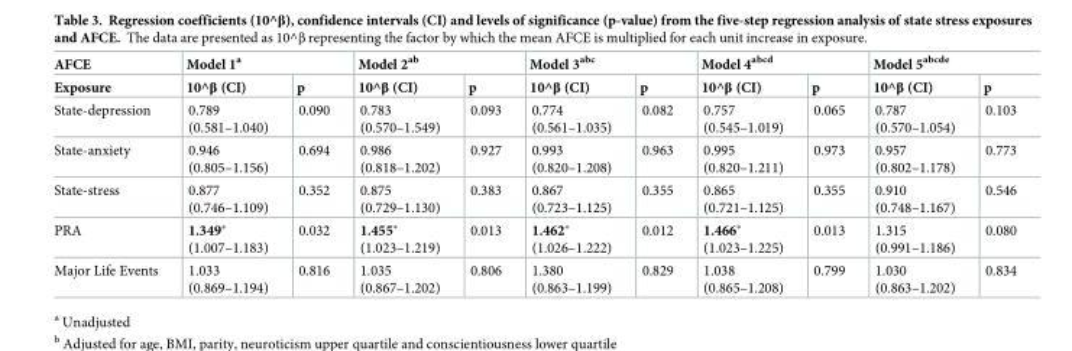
<table><thead><tr><td rowspan="2">AFCE Exposure</td><td colspan="2">Model 1a</td><td colspan="2">Model 2ab</td><td colspan="2">Model 3abc</td><td colspan="2">Model 4abcd</td><td colspan="2">Model 5abcde</td></tr><tr><td>10^β (CI)</td><td>p</td><td>10^β (CI)</td><td>p</td><td>10^β (CI)</td><td>p</td><td>10^β (CI)</td><td>p</td><td>10^β (CI)</td><td>p</td></tr></thead><tbody><tr><td>State-depression</td><td>0.789 (0.581–1.040)</td><td>0.090</td><td>0.783 (0.570–1.549)</td><td>0.093</td><td>0.774 (0.561–1.035)</td><td>0.082</td><td>0.757 (0.545–1.019)</td><td>0.065</td><td>0.787 (0.570–1.054)</td><td>0.103</td></tr><tr><td>State-anxiety</td><td>0.946 (0.805–1.156)</td><td>0.694</td><td>0.986 (0.818–1.202)</td><td>0.927</td><td>0.993 (0.820–1.208)</td><td>0.963</td><td>0.995 (0.820–1.211)</td><td>0.973</td><td>0.957 (0.802–1.178)</td><td>0.773</td></tr><tr><td>State-stress</td><td>0.877 (0.746–1.109)</td><td>0.352</td><td>0.875 (0.729–1.130)</td><td>0.383</td><td>0.867 (0.723–1.125)</td><td>0.355</td><td>0.865 (0.721–1.125)</td><td>0.355</td><td>0.910 (0.748–1.167)</td><td>0.546</td></tr><tr><td>PRA</td><td>1.349* (1.007–1.183)</td><td>0.032</td><td>1.455* (1.023–1.219)</td><td>0.013</td><td>1.462* (1.026–1.222)</td><td>0.012</td><td>1.466* (1.023–1.225)</td><td>0.013</td><td>1.315 (0.991–1.186)</td><td>0.080</td></tr><tr><td>Major Life Events</td><td>1.033 (0.869–1.194)</td><td>0.816</td><td>1.035 (0.867–1.202)</td><td>0.806</td><td>1.380 (0.863–1.199)</td><td>0.829</td><td>1.038 (0.865–1.208)</td><td>0.799</td><td>1.030 (0.863–1.202)</td><td>0.834</td></tr></tbody></table>